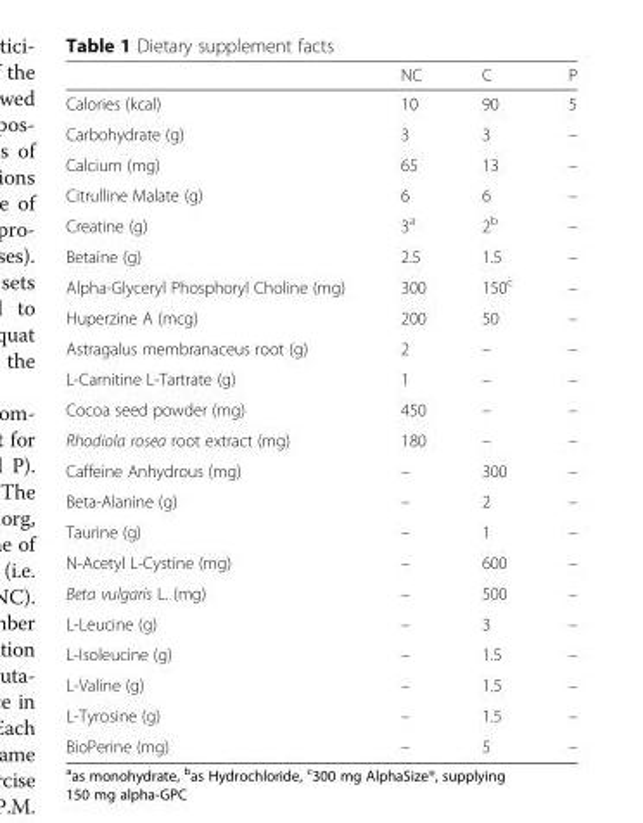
<table><thead><tr><td></td><td>NC</td><td>C</td><td>P</td></tr></thead><tbody><tr><td>Calories (kcal)</td><td>10</td><td>90</td><td>5</td></tr><tr><td>Carbohydrate (g)</td><td>3</td><td>3</td><td>–</td></tr><tr><td>Calcium (mg)</td><td>65</td><td>13</td><td>–</td></tr><tr><td>Citrulline Malate (g)</td><td>6</td><td>6</td><td>–</td></tr><tr><td>Creatine (g)</td><td>3<sup>a</sup></td><td>2<sup>b</sup></td><td>–</td></tr><tr><td>Betaine (g)</td><td>2.5</td><td>1.5</td><td>–</td></tr><tr><td>Alpha-Glyceryl Phosphoryl Choline (mg)</td><td>300</td><td>150<sup>c</sup></td><td>–</td></tr><tr><td>Huperzine A (mcg)</td><td>200</td><td>50</td><td>–</td></tr><tr><td>Astragalus membranaceus root (g)</td><td>2</td><td>–</td><td>–</td></tr><tr><td>L-Carnitine L-Tartrate (g)</td><td>1</td><td>–</td><td>–</td></tr><tr><td>Cocoa seed powder (mg)</td><td>450</td><td>–</td><td>–</td></tr><tr><td>Rhodiola rosea root extract (mg)</td><td>180</td><td>–</td><td>–</td></tr><tr><td>Caffeine Anhydrous (mg)</td><td>–</td><td>300</td><td>–</td></tr><tr><td>Beta-Alanine (g)</td><td>–</td><td>2</td><td>–</td></tr><tr><td>Taurine (g)</td><td>–</td><td>1</td><td>–</td></tr><tr><td>N-Acetyl L-Cystine (mg)</td><td>–</td><td>600</td><td>–</td></tr><tr><td>Beta vulgaris L. (mg)</td><td>–</td><td>500</td><td>–</td></tr><tr><td>L-Leucine (g)</td><td>–</td><td>3</td><td>–</td></tr><tr><td>L-Isoleucine (g)</td><td>–</td><td>1.5</td><td>–</td></tr><tr><td>L-Valine (g)</td><td>–</td><td>1.5</td><td>–</td></tr><tr><td>L-Tyrosine (g)</td><td>–</td><td>1.5</td><td>–</td></tr><tr><td>BioPerine (mg)</td><td>–</td><td>5</td><td>–</td></tr></tbody></table>